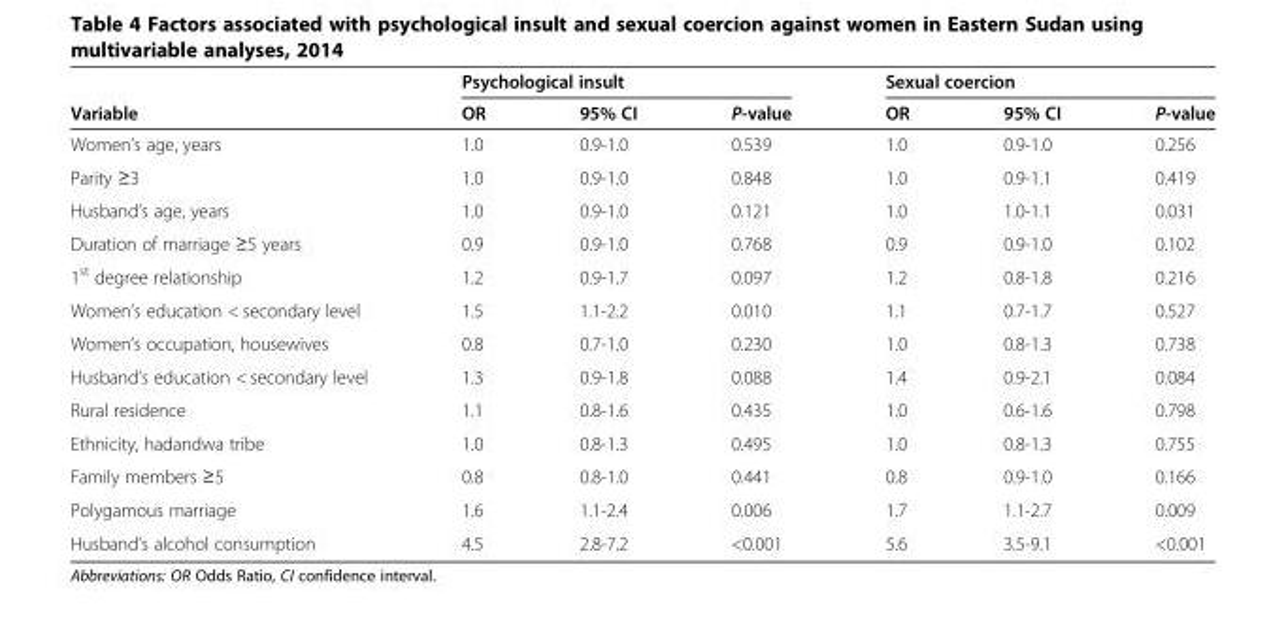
<table><thead><tr><td rowspan="2">Variable</td><td colspan="3">Psychological insult</td><td colspan="3">Sexual coercion</td></tr><tr><td>OR</td><td>95% CI</td><td>P-value</td><td>OR</td><td>95% CI</td><td>P-value</td></tr></thead><tbody><tr><td>Women’s age, years</td><td>1.0</td><td>0.9-1.0</td><td>0.539</td><td>1.0</td><td>0.9-1.0</td><td>0.256</td></tr><tr><td>Parity ≥3</td><td>1.0</td><td>0.9-1.0</td><td>0.848</td><td>1.0</td><td>0.9-1.1</td><td>0.419</td></tr><tr><td>Husband’s age, years</td><td>1.0</td><td>0.9-1.0</td><td>0.121</td><td>1.0</td><td>1.0-1.1</td><td>0.031</td></tr><tr><td>Duration of marriage ≥5 years</td><td>0.9</td><td>0.9-1.0</td><td>0.768</td><td>0.9</td><td>0.9-1.0</td><td>0.102</td></tr><tr><td>1<sup>st</sup> degree relationship</td><td>1.2</td><td>0.9-1.7</td><td>0.097</td><td>1.2</td><td>0.8-1.8</td><td>0.216</td></tr><tr><td>Women’s education &lt; secondary level</td><td>1.5</td><td>1.1-2.2</td><td>0.010</td><td>1.1</td><td>0.7-1.7</td><td>0.527</td></tr><tr><td>Women’s occupation, housewives</td><td>0.8</td><td>0.7-1.0</td><td>0.230</td><td>1.0</td><td>0.8-1.3</td><td>0.738</td></tr><tr><td>Husband’s education &lt; secondary level</td><td>1.3</td><td>0.9-1.8</td><td>0.088</td><td>1.4</td><td>0.9-2.1</td><td>0.084</td></tr><tr><td>Rural residence</td><td>1.1</td><td>0.8-1.6</td><td>0.435</td><td>1.0</td><td>0.6-1.6</td><td>0.798</td></tr><tr><td>Ethnicity, hadandwa tribe</td><td>1.0</td><td>0.8-1.3</td><td>0.495</td><td>1.0</td><td>0.8-1.3</td><td>0.755</td></tr><tr><td>Family members ≥5</td><td>0.8</td><td>0.8-1.0</td><td>0.441</td><td>0.8</td><td>0.9-1.0</td><td>0.166</td></tr><tr><td>Polygamous marriage</td><td>1.6</td><td>1.1-2.4</td><td>0.006</td><td>1.7</td><td>1.1-2.7</td><td>0.009</td></tr><tr><td>Husband’s alcohol consumption</td><td>4.5</td><td>2.8-7.2</td><td>&lt;0.001</td><td>5.6</td><td>3.5-9.1</td><td>&lt;0.001</td></tr></tbody></table>